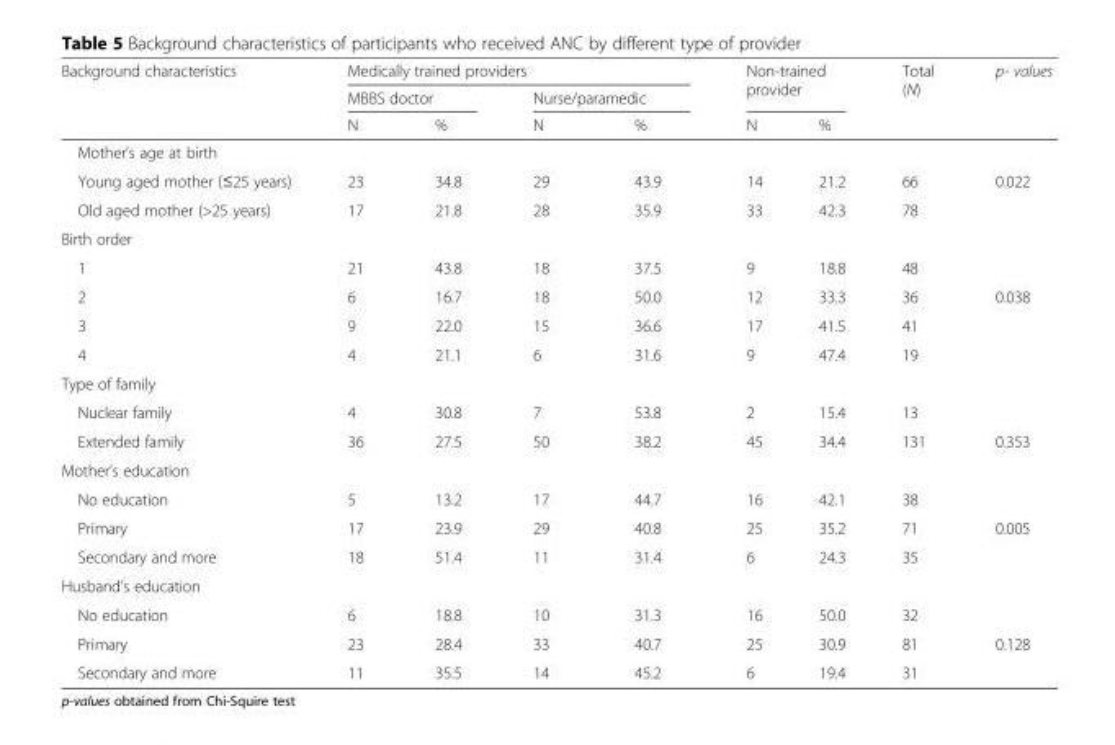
<table><thead><tr><td rowspan="3">Background characteristics</td><td colspan="4">Medically trained providers</td><td rowspan="2" colspan="2">Non-trained provider</td><td rowspan="3">Total (N)</td><td rowspan="3">p- values</td></tr><tr><td colspan="2">MBBS doctor</td><td colspan="2">Nurse/paramedic</td></tr><tr><td>N</td><td>%</td><td>N</td><td>%</td><td>N</td><td>%</td></tr></thead><tbody><tr><td colspan="9">Mother’s age at birth</td></tr><tr><td>Young aged mother (≤25 years)</td><td>23</td><td>34.8</td><td>29</td><td>43.9</td><td>14</td><td>21.2</td><td>66</td><td>0.022</td></tr><tr><td>Old aged mother (&gt;25 years)</td><td>17</td><td>21.8</td><td>28</td><td>35.9</td><td>33</td><td>42.3</td><td>78</td><td></td></tr><tr><td colspan="9">Birth order</td></tr><tr><td>1</td><td>21</td><td>43.8</td><td>18</td><td>37.5</td><td>9</td><td>18.8</td><td>48</td><td></td></tr><tr><td>2</td><td>6</td><td>16.7</td><td>18</td><td>50.0</td><td>12</td><td>33.3</td><td>36</td><td>0.038</td></tr><tr><td>3</td><td>9</td><td>22.0</td><td>15</td><td>36.6</td><td>17</td><td>41.5</td><td>41</td><td></td></tr><tr><td>4</td><td>4</td><td>21.1</td><td>6</td><td>31.6</td><td>9</td><td>47.4</td><td>19</td><td></td></tr><tr><td colspan="9">Type of family</td></tr><tr><td>Nuclear family</td><td>4</td><td>30.8</td><td>7</td><td>53.8</td><td>2</td><td>15.4</td><td>13</td><td></td></tr><tr><td>Extended family</td><td>36</td><td>27.5</td><td>50</td><td>38.2</td><td>45</td><td>34.4</td><td>131</td><td>0.353</td></tr><tr><td colspan="9">Mother’s education</td></tr><tr><td>No education</td><td>5</td><td>13.2</td><td>17</td><td>44.7</td><td>16</td><td>42.1</td><td>38</td><td></td></tr><tr><td>Primary</td><td>17</td><td>23.9</td><td>29</td><td>40.8</td><td>25</td><td>35.2</td><td>71</td><td>0.005</td></tr><tr><td>Secondary and more</td><td>18</td><td>51.4</td><td>11</td><td>31.4</td><td>6</td><td>24.3</td><td>35</td><td></td></tr><tr><td colspan="9">Husband’s education</td></tr><tr><td>No education</td><td>6</td><td>18.8</td><td>10</td><td>31.3</td><td>16</td><td>50.0</td><td>32</td><td></td></tr><tr><td>Primary</td><td>23</td><td>28.4</td><td>33</td><td>40.7</td><td>25</td><td>30.9</td><td>81</td><td>0.128</td></tr><tr><td>Secondary and more</td><td>11</td><td>35.5</td><td>14</td><td>45.2</td><td>6</td><td>19.4</td><td>31</td><td></td></tr></tbody></table>